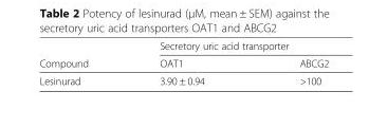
<table><thead><tr><td rowspan="2">Compound</td><td colspan="2">Secretory uric acid transporter</td></tr><tr><td>OAT1</td><td>ABCG2</td></tr></thead><tbody><tr><td>Lesinurad</td><td>3.90 ± 0.94</td><td>&gt;100</td></tr></tbody></table>